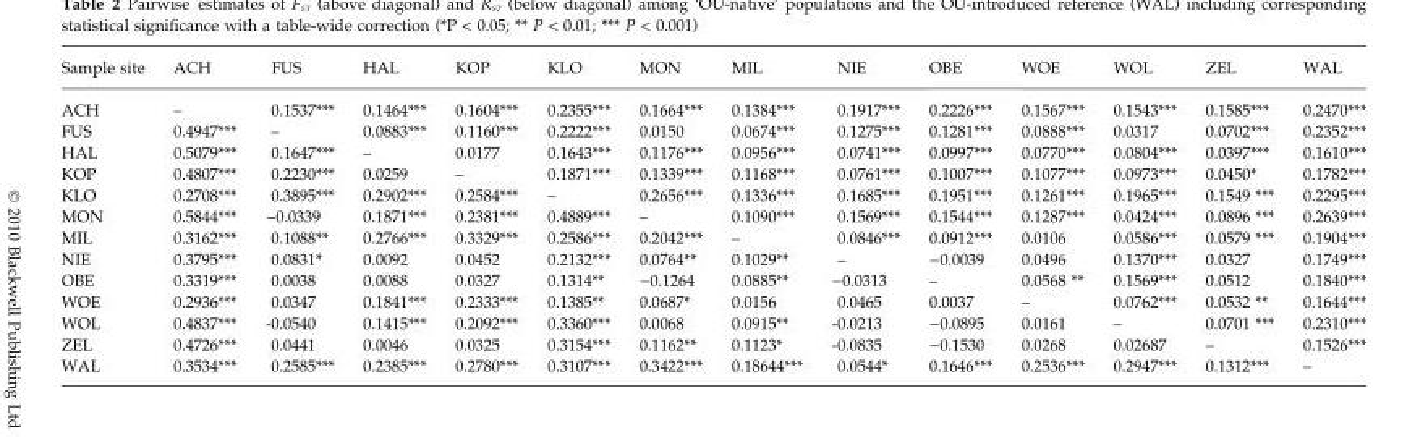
<table><thead><tr><td>Sample site</td><td>ACH</td><td>FUS</td><td>HAL</td><td>KOP</td><td>KLO</td><td>MON</td><td>MIL</td><td>NIE</td><td>OBE</td><td>WOE</td><td>WOL</td><td>ZEL</td><td>WAL</td></tr></thead><tbody><tr><td>ACH</td><td>–</td><td>0.1537***</td><td>0.1464***</td><td>0.1604***</td><td>0.2355***</td><td>0.1664***</td><td>0.1384***</td><td>0.1917***</td><td>0.2226***</td><td>0.1567***</td><td>0.1543***</td><td>0.1585***</td><td>0.2470***</td></tr><tr><td>FUS</td><td>0.4947***</td><td>–</td><td>0.0883***</td><td>0.1160***</td><td>0.2222***</td><td>0.0150</td><td>0.0674***</td><td>0.1275***</td><td>0.1281***</td><td>0.0888***</td><td>0.0317</td><td>0.0702***</td><td>0.2352***</td></tr><tr><td>HAL</td><td>0.5079***</td><td>0.1647***</td><td>–</td><td>0.0177</td><td>0.1643***</td><td>0.1176***</td><td>0.0956***</td><td>0.0741***</td><td>0.0997***</td><td>0.0770***</td><td>0.0804***</td><td>0.0397***</td><td>0.1610***</td></tr><tr><td>KOP</td><td>0.4807***</td><td>0.2230***</td><td>0.0259</td><td>–</td><td>0.1871***</td><td>0.1339***</td><td>0.1168***</td><td>0.0761***</td><td>0.1007***</td><td>0.1077***</td><td>0.0973***</td><td>0.0450*</td><td>0.1782***</td></tr><tr><td>KLO</td><td>0.2708***</td><td>0.3895***</td><td>0.2902***</td><td>0.2584***</td><td>–</td><td>0.2656***</td><td>0.1336***</td><td>0.1685***</td><td>0.1951***</td><td>0.1261***</td><td>0.1965***</td><td>0.1549 ***</td><td>0.2295***</td></tr><tr><td>MON</td><td>0.5844***</td><td>−0.0339</td><td>0.1871***</td><td>0.2381***</td><td>0.4889***</td><td>–</td><td>0.1090***</td><td>0.1569***</td><td>0.1544***</td><td>0.1287***</td><td>0.0424***</td><td>0.0896 ***</td><td>0.2639***</td></tr><tr><td>MIL</td><td>0.3162***</td><td>0.1088**</td><td>0.2766***</td><td>0.3329***</td><td>0.2586***</td><td>0.2042***</td><td>–</td><td>0.0846***</td><td>0.0912***</td><td>0.0106</td><td>0.0586***</td><td>0.0579 ***</td><td>0.1904***</td></tr><tr><td>NIE</td><td>0.3795***</td><td>0.0831*</td><td>0.0092</td><td>0.0452</td><td>0.2132***</td><td>0.0764**</td><td>0.1029**</td><td>–</td><td>−0.0039</td><td>0.0496</td><td>0.1370***</td><td>0.0327</td><td>0.1749***</td></tr><tr><td>OBE</td><td>0.3319***</td><td>0.0038</td><td>0.0088</td><td>0.0327</td><td>0.1314**</td><td>−0.1264</td><td>0.0885**</td><td>−0.0313</td><td>–</td><td>0.0568 **</td><td>0.1569***</td><td>0.0512</td><td>0.1840***</td></tr><tr><td>WOE</td><td>0.2936***</td><td>0.0347</td><td>0.1841***</td><td>0.2333***</td><td>0.1385**</td><td>0.0687*</td><td>0.0156</td><td>0.0465</td><td>0.0037</td><td>–</td><td>0.0762***</td><td>0.0532 **</td><td>0.1644***</td></tr><tr><td>WOL</td><td>0.4837***</td><td>-0.0540</td><td>0.1415***</td><td>0.2092***</td><td>0.3360***</td><td>0.0068</td><td>0.0915**</td><td>-0.0213</td><td>−0.0895</td><td>0.0161</td><td>–</td><td>0.0701 ***</td><td>0.2310***</td></tr><tr><td>ZEL</td><td>0.4726***</td><td>0.0441</td><td>0.0046</td><td>0.0325</td><td>0.3154***</td><td>0.1162**</td><td>0.1123*</td><td>-0.0835</td><td>−0.1530</td><td>0.0268</td><td>0.02687</td><td>–</td><td>0.1526***</td></tr><tr><td>WAL</td><td>0.3534***</td><td>0.2585***</td><td>0.2385***</td><td>0.2780***</td><td>0.3107***</td><td>0.3422***</td><td>0.18644***</td><td>0.0544*</td><td>0.1646***</td><td>0.2536***</td><td>0.2947***</td><td>0.1312***</td><td>–</td></tr></tbody></table>